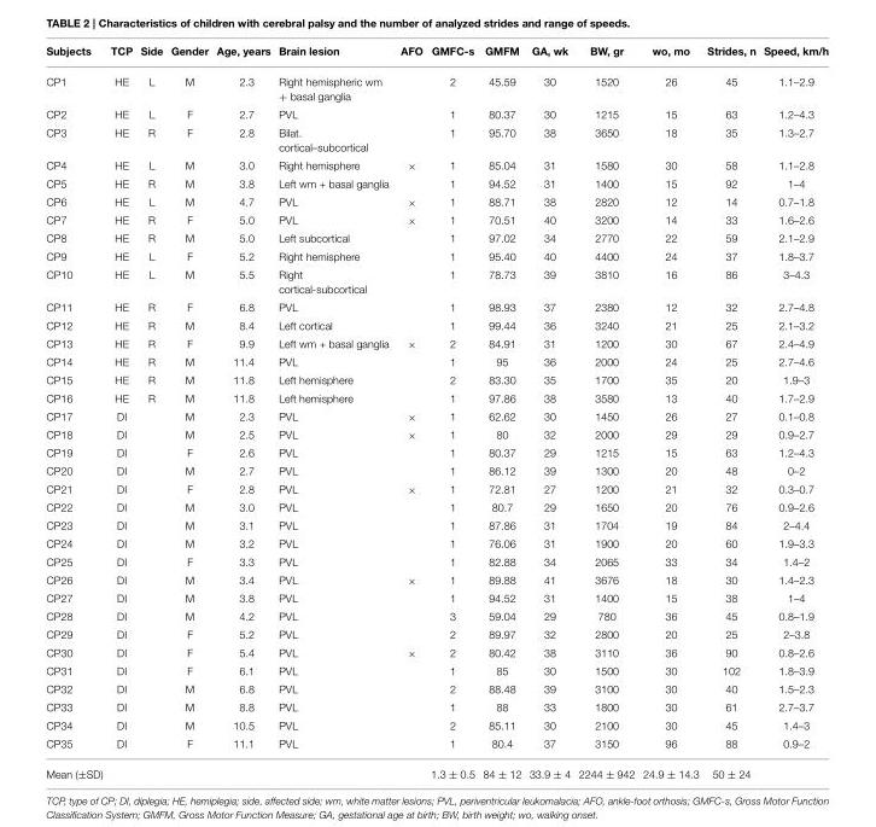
<table><thead><tr><td>Subjects</td><td>TCP</td><td>Side</td><td>Gender</td><td>Age, years</td><td>Brain lesion</td><td>AFO</td><td>GMFC-s</td><td>GMFM</td><td>GA, wk</td><td>BW, gr</td><td>wo, mo</td><td>Strides, n</td><td>Speed, km/h</td></tr></thead><tbody><tr><td>CP1</td><td>HE</td><td>L</td><td>M</td><td>2.3</td><td>Right hemispheric wm + basal ganglia</td><td></td><td>2</td><td>45.59</td><td>30</td><td>1520</td><td>26</td><td>45</td><td>1.1–2.9</td></tr><tr><td>CP2</td><td>HE</td><td>L</td><td>F</td><td>2.7</td><td>PVL</td><td></td><td>1</td><td>80.37</td><td>30</td><td>1215</td><td>15</td><td>63</td><td>1.2–4.3</td></tr><tr><td>CP3</td><td>HE</td><td>R</td><td>F</td><td>2.8</td><td>Bilat. cortical–subcortical</td><td></td><td>1</td><td>95.70</td><td>38</td><td>3650</td><td>18</td><td>35</td><td>1.3–2.7</td></tr><tr><td>CP4</td><td>HE</td><td>L</td><td>M</td><td>3.0</td><td>Right hemisphere</td><td>×</td><td>1</td><td>85.04</td><td>31</td><td>1580</td><td>30</td><td>58</td><td>1.1–2.8</td></tr><tr><td>CP5</td><td>HE</td><td>R</td><td>M</td><td>3.8</td><td>Left wm + basal ganglia</td><td></td><td>1</td><td>94.52</td><td>31</td><td>1400</td><td>15</td><td>92</td><td>1–4</td></tr><tr><td>CP6</td><td>HE</td><td>L</td><td>M</td><td>4.7</td><td>PVL</td><td>×</td><td>1</td><td>88.71</td><td>38</td><td>2820</td><td>12</td><td>14</td><td>0.7–1.8</td></tr><tr><td>CP7</td><td>HE</td><td>R</td><td>F</td><td>5.0</td><td>PVL</td><td>×</td><td>1</td><td>70.51</td><td>40</td><td>3200</td><td>14</td><td>33</td><td>1.6–2.6</td></tr><tr><td>CP8</td><td>HE</td><td>R</td><td>M</td><td>5.0</td><td>Left subcortical</td><td></td><td>1</td><td>97.02</td><td>34</td><td>2770</td><td>22</td><td>59</td><td>2.1–2.9</td></tr><tr><td>CP9</td><td>HE</td><td>L</td><td>F</td><td>5.2</td><td>Right hemisphere</td><td></td><td>1</td><td>95.40</td><td>40</td><td>4400</td><td>24</td><td>37</td><td>1.8–3.7</td></tr><tr><td>CP10</td><td>HE</td><td>L</td><td>M</td><td>5.5</td><td>Right cortical-subcortical</td><td></td><td>1</td><td>78.73</td><td>39</td><td>3810</td><td>16</td><td>86</td><td>3–4.3</td></tr><tr><td>CP11</td><td>HE</td><td>R</td><td>F</td><td>6.8</td><td>PVL</td><td></td><td>1</td><td>98.93</td><td>37</td><td>2380</td><td>12</td><td>32</td><td>2.7–4.8</td></tr><tr><td>CP12</td><td>HE</td><td>R</td><td>M</td><td>8.4</td><td>Left cortical</td><td></td><td>1</td><td>99.44</td><td>36</td><td>3240</td><td>21</td><td>25</td><td>2.1–3.2</td></tr><tr><td>CP13</td><td>HE</td><td>R</td><td>F</td><td>9.9</td><td>Left wm + basal ganglia</td><td>×</td><td>2</td><td>84.91</td><td>31</td><td>1200</td><td>30</td><td>67</td><td>2.4–4.9</td></tr><tr><td>CP14</td><td>HE</td><td>R</td><td>M</td><td>11.4</td><td>PVL</td><td></td><td>1</td><td>95</td><td>36</td><td>2000</td><td>24</td><td>25</td><td>2.7–4.6</td></tr><tr><td>CP15</td><td>HE</td><td>R</td><td>M</td><td>11.8</td><td>Left hemisphere</td><td></td><td>2</td><td>83.30</td><td>35</td><td>1700</td><td>35</td><td>20</td><td>1.9–3</td></tr><tr><td>CP16</td><td>HE</td><td>R</td><td>M</td><td>11.8</td><td>Left hemisphere</td><td></td><td>1</td><td>97.86</td><td>38</td><td>3580</td><td>13</td><td>40</td><td>1.7–2.9</td></tr><tr><td>CP17</td><td>DI</td><td></td><td>M</td><td>2.3</td><td>PVL</td><td>×</td><td>1</td><td>62.62</td><td>30</td><td>1450</td><td>26</td><td>27</td><td>0.1–0.8</td></tr><tr><td>CP18</td><td>DI</td><td></td><td>M</td><td>2.5</td><td>PVL</td><td>×</td><td>1</td><td>80</td><td>32</td><td>2000</td><td>29</td><td>29</td><td>0.9–2.7</td></tr><tr><td>CP19</td><td>DI</td><td></td><td>F</td><td>2.6</td><td>PVL</td><td></td><td>1</td><td>80.37</td><td>29</td><td>1215</td><td>15</td><td>63</td><td>1.2–4.3</td></tr><tr><td>CP20</td><td>DI</td><td></td><td>M</td><td>2.7</td><td>PVL</td><td></td><td>1</td><td>86.12</td><td>39</td><td>1300</td><td>20</td><td>48</td><td>0–2</td></tr><tr><td>CP21</td><td>DI</td><td></td><td>F</td><td>2.8</td><td>PVL</td><td>×</td><td>1</td><td>72.81</td><td>27</td><td>1200</td><td>21</td><td>32</td><td>0.3–0.7</td></tr><tr><td>CP22</td><td>DI</td><td></td><td>M</td><td>3.0</td><td>PVL</td><td></td><td>1</td><td>80.7</td><td>29</td><td>1650</td><td>20</td><td>76</td><td>0.9–2.6</td></tr><tr><td>CP23</td><td>DI</td><td></td><td>M</td><td>3.1</td><td>PVL</td><td></td><td>1</td><td>87.86</td><td>31</td><td>1704</td><td>19</td><td>84</td><td>2–4.4</td></tr><tr><td>CP24</td><td>DI</td><td></td><td>M</td><td>3.2</td><td>PVL</td><td></td><td>1</td><td>76.06</td><td>31</td><td>1900</td><td>20</td><td>60</td><td>1.9–3.3</td></tr><tr><td>CP25</td><td>DI</td><td></td><td>F</td><td>3.3</td><td>PVL</td><td></td><td>1</td><td>82.88</td><td>34</td><td>2065</td><td>33</td><td>34</td><td>1.4–2</td></tr><tr><td>CP26</td><td>DI</td><td></td><td>M</td><td>3.4</td><td>PVL</td><td>×</td><td>1</td><td>89.88</td><td>41</td><td>3676</td><td>18</td><td>30</td><td>1.4–2.3</td></tr><tr><td>CP27</td><td>DI</td><td></td><td>M</td><td>3.8</td><td>PVL</td><td></td><td>1</td><td>94.52</td><td>31</td><td>1400</td><td>15</td><td>38</td><td>1–4</td></tr><tr><td>CP28</td><td>DI</td><td></td><td>M</td><td>4.2</td><td>PVL</td><td></td><td>3</td><td>59.04</td><td>29</td><td>780</td><td>36</td><td>45</td><td>0.8–1.9</td></tr><tr><td>CP29</td><td>DI</td><td></td><td>F</td><td>5.2</td><td>PVL</td><td></td><td>2</td><td>89.97</td><td>32</td><td>2800</td><td>20</td><td>25</td><td>2–3.8</td></tr><tr><td>CP30</td><td>DI</td><td></td><td>F</td><td>5.4</td><td>PVL</td><td>×</td><td>2</td><td>80.42</td><td>38</td><td>3110</td><td>36</td><td>90</td><td>0.8–2.6</td></tr><tr><td>CP31</td><td>DI</td><td></td><td>F</td><td>6.1</td><td>PVL</td><td></td><td>1</td><td>85</td><td>30</td><td>1500</td><td>30</td><td>102</td><td>1.8–3.9</td></tr><tr><td>CP32</td><td>DI</td><td></td><td>M</td><td>6.8</td><td>PVL</td><td></td><td>2</td><td>88.48</td><td>39</td><td>3100</td><td>30</td><td>40</td><td>1.5–2.3</td></tr><tr><td>CP33</td><td>DI</td><td></td><td>M</td><td>8.8</td><td>PVL</td><td></td><td>1</td><td>88</td><td>33</td><td>1800</td><td>30</td><td>61</td><td>2.7–3.7</td></tr><tr><td>CP34</td><td>DI</td><td></td><td>M</td><td>10.5</td><td>PVL</td><td></td><td>2</td><td>85.11</td><td>30</td><td>2100</td><td>30</td><td>45</td><td>1.4–3</td></tr><tr><td>CP35</td><td>DI</td><td></td><td>F</td><td>11.1</td><td>PVL</td><td></td><td>1</td><td>80.4</td><td>37</td><td>3150</td><td>96</td><td>88</td><td>0.9–2</td></tr><tr><td>Mean (±SD)</td><td></td><td></td><td></td><td></td><td></td><td></td><td>1.3 ± 0.5</td><td>84 ± 12</td><td>33.9 ± 4</td><td>2244 ± 942</td><td>24.9 ± 14.3</td><td>50 ± 24</td><td></td></tr></tbody></table>